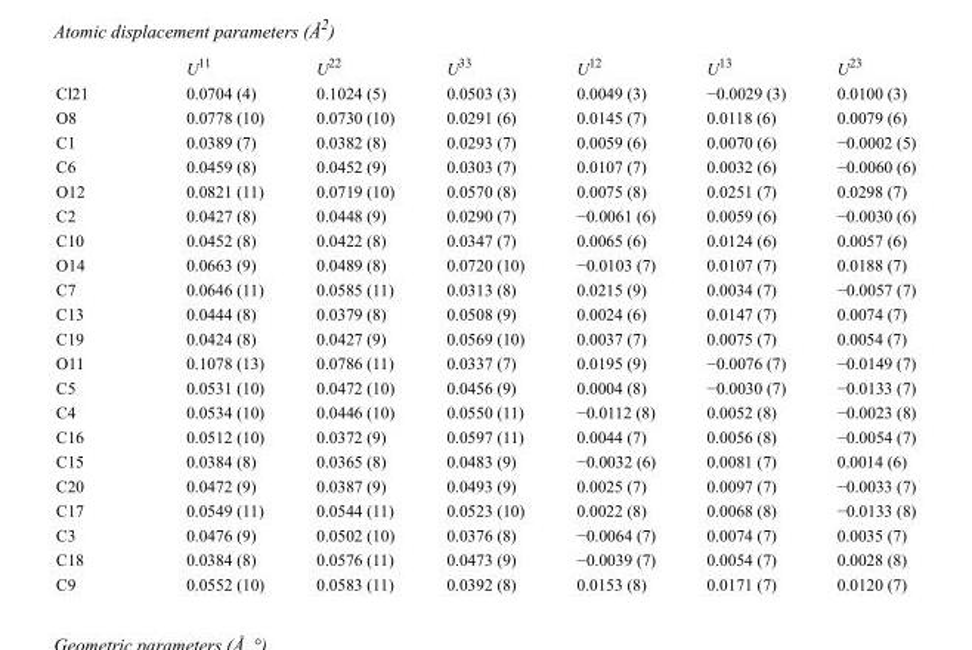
<table><thead><tr><td></td><td>U<sup>11</sup></td><td>U<sup>22</sup></td><td>U<sup>33</sup></td><td>U<sup>12</sup></td><td>U<sup>13</sup></td><td>U<sup>23</sup></td></tr></thead><tbody><tr><td>Cl21</td><td>0.0704 (4)</td><td>0.1024 (5)</td><td>0.0503 (3)</td><td>0.0049 (3)</td><td>−0.0029 (3)</td><td>0.0100 (3)</td></tr><tr><td>O8</td><td>0.0778 (10)</td><td>0.0730 (10)</td><td>0.0291 (6)</td><td>0.0145 (7)</td><td>0.0118 (6)</td><td>0.0079 (6)</td></tr><tr><td>C1</td><td>0.0389 (7)</td><td>0.0382 (8)</td><td>0.0293 (7)</td><td>0.0059 (6)</td><td>0.0070 (6)</td><td>−0.0002 (5)</td></tr><tr><td>C6</td><td>0.0459 (8)</td><td>0.0452 (9)</td><td>0.0303 (7)</td><td>0.0107 (7)</td><td>0.0032 (6)</td><td>−0.0060 (6)</td></tr><tr><td>O12</td><td>0.0821 (11)</td><td>0.0719 (10)</td><td>0.0570 (8)</td><td>0.0075 (8)</td><td>0.0251 (7)</td><td>0.0298 (7)</td></tr><tr><td>C2</td><td>0.0427 (8)</td><td>0.0448 (9)</td><td>0.0290 (7)</td><td>−0.0061 (6)</td><td>0.0059 (6)</td><td>−0.0030 (6)</td></tr><tr><td>C10</td><td>0.0452 (8)</td><td>0.0422 (8)</td><td>0.0347 (7)</td><td>0.0065 (6)</td><td>0.0124 (6)</td><td>0.0057 (6)</td></tr><tr><td>O14</td><td>0.0663 (9)</td><td>0.0489 (8)</td><td>0.0720 (10)</td><td>−0.0103 (7)</td><td>0.0107 (7)</td><td>0.0188 (7)</td></tr><tr><td>C7</td><td>0.0646 (11)</td><td>0.0585 (11)</td><td>0.0313 (8)</td><td>0.0215 (9)</td><td>0.0034 (7)</td><td>−0.0057 (7)</td></tr><tr><td>C13</td><td>0.0444 (8)</td><td>0.0379 (8)</td><td>0.0508 (9)</td><td>0.0024 (6)</td><td>0.0147 (7)</td><td>0.0074 (7)</td></tr><tr><td>C19</td><td>0.0424 (8)</td><td>0.0427 (9)</td><td>0.0569 (10)</td><td>0.0037 (7)</td><td>0.0075 (7)</td><td>0.0054 (7)</td></tr><tr><td>O11</td><td>0.1078 (13)</td><td>0.0786 (11)</td><td>0.0337 (7)</td><td>0.0195 (9)</td><td>−0.0076 (7)</td><td>−0.0149 (7)</td></tr><tr><td>C5</td><td>0.0531 (10)</td><td>0.0472 (10)</td><td>0.0456 (9)</td><td>0.0004 (8)</td><td>−0.0030 (7)</td><td>−0.0133 (7)</td></tr><tr><td>C4</td><td>0.0534 (10)</td><td>0.0446 (10)</td><td>0.0550 (11)</td><td>−0.0112 (8)</td><td>0.0052 (8)</td><td>−0.0023 (8)</td></tr><tr><td>C16</td><td>0.0512 (10)</td><td>0.0372 (9)</td><td>0.0597 (11)</td><td>0.0044 (7)</td><td>0.0056 (8)</td><td>−0.0054 (7)</td></tr><tr><td>C15</td><td>0.0384 (8)</td><td>0.0365 (8)</td><td>0.0483 (9)</td><td>−0.0032 (6)</td><td>0.0081 (7)</td><td>0.0014 (6)</td></tr><tr><td>C20</td><td>0.0472 (9)</td><td>0.0387 (9)</td><td>0.0493 (9)</td><td>0.0025 (7)</td><td>0.0097 (7)</td><td>−0.0033 (7)</td></tr><tr><td>C17</td><td>0.0549 (11)</td><td>0.0544 (11)</td><td>0.0523 (10)</td><td>0.0022 (8)</td><td>0.0068 (8)</td><td>−0.0133 (8)</td></tr><tr><td>C3</td><td>0.0476 (9)</td><td>0.0502 (10)</td><td>0.0376 (8)</td><td>−0.0064 (7)</td><td>0.0074 (7)</td><td>0.0035 (7)</td></tr><tr><td>C18</td><td>0.0384 (8)</td><td>0.0576 (11)</td><td>0.0473 (9)</td><td>−0.0039 (7)</td><td>0.0054 (7)</td><td>0.0028 (8)</td></tr><tr><td>C9</td><td>0.0552 (10)</td><td>0.0583 (11)</td><td>0.0392 (8)</td><td>0.0153 (8)</td><td>0.0171 (7)</td><td>0.0120 (7)</td></tr></tbody></table>